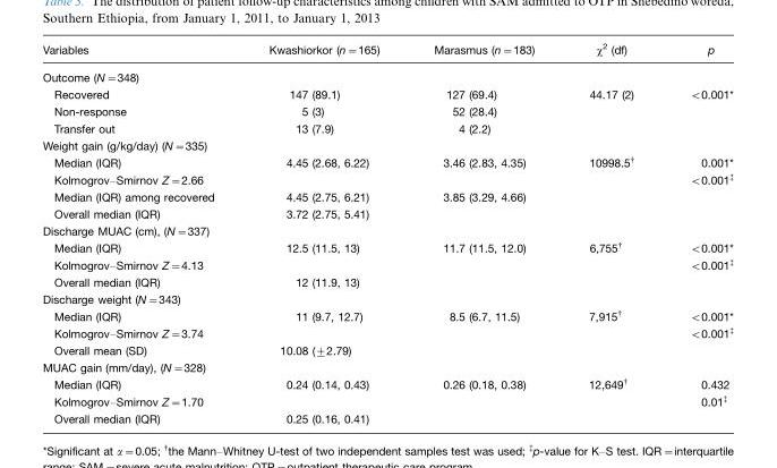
<table><thead><tr><td>Variables</td><td>Kwashiorkor (n=165)</td><td>Marasmus (n=183)</td><td>χ<sup>2</sup> (df)</td><td>p</td></tr></thead><tbody><tr><td colspan="5">Outcome (N=348)</td></tr><tr><td>Recovered</td><td>147 (89.1)</td><td>127 (69.4)</td><td>44.17 (2)</td><td>&lt;0.001*</td></tr><tr><td>Non-response</td><td>5 (3)</td><td>52 (28.4)</td><td></td><td></td></tr><tr><td>Transfer out</td><td>13 (7.9)</td><td>4 (2.2)</td><td></td><td></td></tr><tr><td colspan="5">Weight gain (g/kg/day) (N=335)</td></tr><tr><td>Median (IQR)</td><td>4.45 (2.68, 6.22)</td><td>3.46 (2.83, 4.35)</td><td>10998.5†</td><td>0.001*</td></tr><tr><td>Kolmogrov–Smirnov Z=2.66</td><td></td><td></td><td></td><td>&lt;0.001‡</td></tr><tr><td>Median (IQR) among recovered</td><td>4.45 (2.75, 6.21)</td><td>3.85 (3.29, 4.66)</td><td></td><td></td></tr><tr><td>Overall median (IQR)</td><td>3.72 (2.75, 5.41)</td><td></td><td></td><td></td></tr><tr><td colspan="5">Discharge MUAC (cm), (N=337)</td></tr><tr><td>Median (IQR)</td><td>12.5 (11.5, 13)</td><td>11.7 (11.5, 12.0)</td><td>6,755†</td><td>&lt;0.001*</td></tr><tr><td>Kolmogrov–Smirnov Z=4.13</td><td></td><td></td><td></td><td>&lt;0.001‡</td></tr><tr><td>Overall median (IQR)</td><td>12 (11.9, 13)</td><td></td><td></td><td></td></tr><tr><td colspan="5">Discharge weight (N=343)</td></tr><tr><td>Median (IQR)</td><td>11 (9.7, 12.7)</td><td>8.5 (6.7, 11.5)</td><td>7,915†</td><td>&lt;0.001*</td></tr><tr><td>Kolmogrov–Smirnov Z=3.74</td><td></td><td></td><td></td><td>&lt;0.001‡</td></tr><tr><td>Overall mean (SD)</td><td>10.08 (±2.79)</td><td></td><td></td><td></td></tr><tr><td colspan="5">MUAC gain (mm/day), (N=328)</td></tr><tr><td>Median (IQR)</td><td>0.24 (0.14, 0.43)</td><td>0.26 (0.18, 0.38)</td><td>12,649†</td><td>0.432</td></tr><tr><td>Kolmogrov–Smirnov Z=1.70</td><td></td><td></td><td></td><td>0.01‡</td></tr><tr><td>Overall median (IQR)</td><td>0.25 (0.16, 0.41)</td><td></td><td></td><td></td></tr></tbody></table>